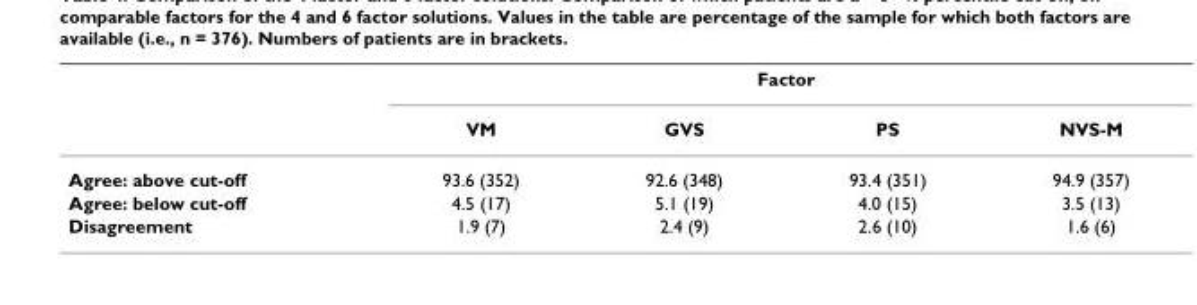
<table><thead><tr><td rowspan="2"></td><td colspan="4">Factor</td></tr><tr><td>VM</td><td>GVS</td><td>PS</td><td>NVS-M</td></tr></thead><tbody><tr><td>Agree: above cut-off</td><td>93.6 (352)</td><td>92.6 (348)</td><td>93.4 (351)</td><td>94.9 (357)</td></tr><tr><td>Agree: below cut-off</td><td>4.5 (17)</td><td>5.1 (19)</td><td>4.0 (15)</td><td>3.5 (13)</td></tr><tr><td>Disagreement</td><td>1.9 (7)</td><td>2.4 (9)</td><td>2.6 (10)</td><td>1.6 (6)</td></tr></tbody></table>